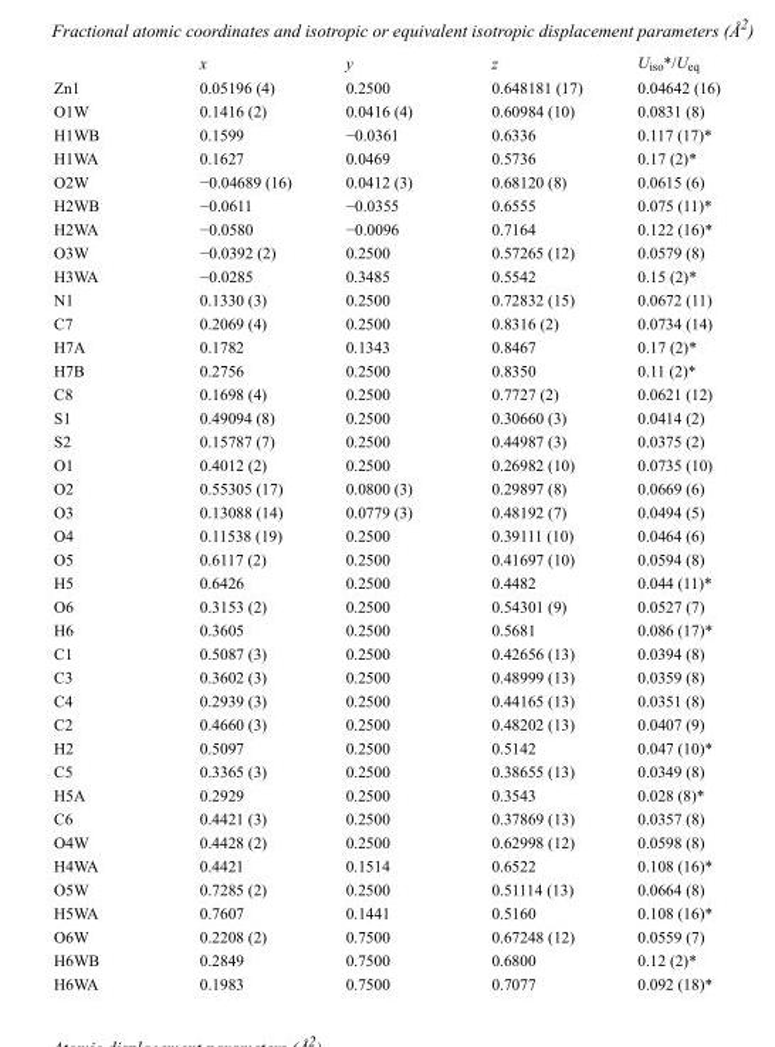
<table><thead><tr><td></td><td>x</td><td>y</td><td>z</td><td>U<sub>iso</sub>*/U<sub>eq</sub></td></tr></thead><tbody><tr><td>Zn1</td><td>0.05196 (4)</td><td>0.2500</td><td>0.648181 (17)</td><td>0.04642 (16)</td></tr><tr><td>O1W</td><td>0.1416 (2)</td><td>0.0416 (4)</td><td>0.60984 (10)</td><td>0.0831 (8)</td></tr><tr><td>H1WB</td><td>0.1599</td><td>−0.0361</td><td>0.6336</td><td>0.117 (17)*</td></tr><tr><td>H1WA</td><td>0.1627</td><td>0.0469</td><td>0.5736</td><td>0.17 (2)*</td></tr><tr><td>O2W</td><td>−0.04689 (16)</td><td>0.0412 (3)</td><td>0.68120 (8)</td><td>0.0615 (6)</td></tr><tr><td>H2WB</td><td>−0.0611</td><td>−0.0355</td><td>0.6555</td><td>0.075 (11)*</td></tr><tr><td>H2WA</td><td>−0.0580</td><td>−0.0096</td><td>0.7164</td><td>0.122 (16)*</td></tr><tr><td>O3W</td><td>−0.0392 (2)</td><td>0.2500</td><td>0.57265 (12)</td><td>0.0579 (8)</td></tr><tr><td>H3WA</td><td>−0.0285</td><td>0.3485</td><td>0.5542</td><td>0.15 (2)*</td></tr><tr><td>N1</td><td>0.1330 (3)</td><td>0.2500</td><td>0.72832 (15)</td><td>0.0672 (11)</td></tr><tr><td>C7</td><td>0.2069 (4)</td><td>0.2500</td><td>0.8316 (2)</td><td>0.0734 (14)</td></tr><tr><td>H7A</td><td>0.1782</td><td>0.1343</td><td>0.8467</td><td>0.17 (2)*</td></tr><tr><td>H7B</td><td>0.2756</td><td>0.2500</td><td>0.8350</td><td>0.11 (2)*</td></tr><tr><td>C8</td><td>0.1698 (4)</td><td>0.2500</td><td>0.7727 (2)</td><td>0.0621 (12)</td></tr><tr><td>S1</td><td>0.49094 (8)</td><td>0.2500</td><td>0.30660 (3)</td><td>0.0414 (2)</td></tr><tr><td>S2</td><td>0.15787 (7)</td><td>0.2500</td><td>0.44987 (3)</td><td>0.0375 (2)</td></tr><tr><td>O1</td><td>0.4012 (2)</td><td>0.2500</td><td>0.26982 (10)</td><td>0.0735 (10)</td></tr><tr><td>O2</td><td>0.55305 (17)</td><td>0.0800 (3)</td><td>0.29897 (8)</td><td>0.0669 (6)</td></tr><tr><td>O3</td><td>0.13088 (14)</td><td>0.0779 (3)</td><td>0.48192 (7)</td><td>0.0494 (5)</td></tr><tr><td>O4</td><td>0.11538 (19)</td><td>0.2500</td><td>0.39111 (10)</td><td>0.0464 (6)</td></tr><tr><td>O5</td><td>0.6117 (2)</td><td>0.2500</td><td>0.41697 (10)</td><td>0.0594 (8)</td></tr><tr><td>H5</td><td>0.6426</td><td>0.2500</td><td>0.4482</td><td>0.044 (11)*</td></tr><tr><td>O6</td><td>0.3153 (2)</td><td>0.2500</td><td>0.54301 (9)</td><td>0.0527 (7)</td></tr><tr><td>H6</td><td>0.3605</td><td>0.2500</td><td>0.5681</td><td>0.086 (17)*</td></tr><tr><td>C1</td><td>0.5087 (3)</td><td>0.2500</td><td>0.42656 (13)</td><td>0.0394 (8)</td></tr><tr><td>C3</td><td>0.3602 (3)</td><td>0.2500</td><td>0.48999 (13)</td><td>0.0359 (8)</td></tr><tr><td>C4</td><td>0.2939 (3)</td><td>0.2500</td><td>0.44165 (13)</td><td>0.0351 (8)</td></tr><tr><td>C2</td><td>0.4660 (3)</td><td>0.2500</td><td>0.48202 (13)</td><td>0.0407 (9)</td></tr><tr><td>H2</td><td>0.5097</td><td>0.2500</td><td>0.5142</td><td>0.047 (10)*</td></tr><tr><td>C5</td><td>0.3365 (3)</td><td>0.2500</td><td>0.38655 (13)</td><td>0.0349 (8)</td></tr><tr><td>H5A</td><td>0.2929</td><td>0.2500</td><td>0.3543</td><td>0.028 (8)*</td></tr><tr><td>C6</td><td>0.4421 (3)</td><td>0.2500</td><td>0.37869 (13)</td><td>0.0357 (8)</td></tr><tr><td>O4W</td><td>0.4428 (2)</td><td>0.2500</td><td>0.62998 (12)</td><td>0.0598 (8)</td></tr><tr><td>H4WA</td><td>0.4421</td><td>0.1514</td><td>0.6522</td><td>0.108 (16)*</td></tr><tr><td>O5W</td><td>0.7285 (2)</td><td>0.2500</td><td>0.51114 (13)</td><td>0.0664 (8)</td></tr><tr><td>H5WA</td><td>0.7607</td><td>0.1441</td><td>0.5160</td><td>0.108 (16)*</td></tr><tr><td>O6W</td><td>0.2208 (2)</td><td>0.7500</td><td>0.67248 (12)</td><td>0.0559 (7)</td></tr><tr><td>H6WB</td><td>0.2849</td><td>0.7500</td><td>0.6800</td><td>0.12 (2)*</td></tr><tr><td>H6WA</td><td>0.1983</td><td>0.7500</td><td>0.7077</td><td>0.092 (18)*</td></tr></tbody></table>